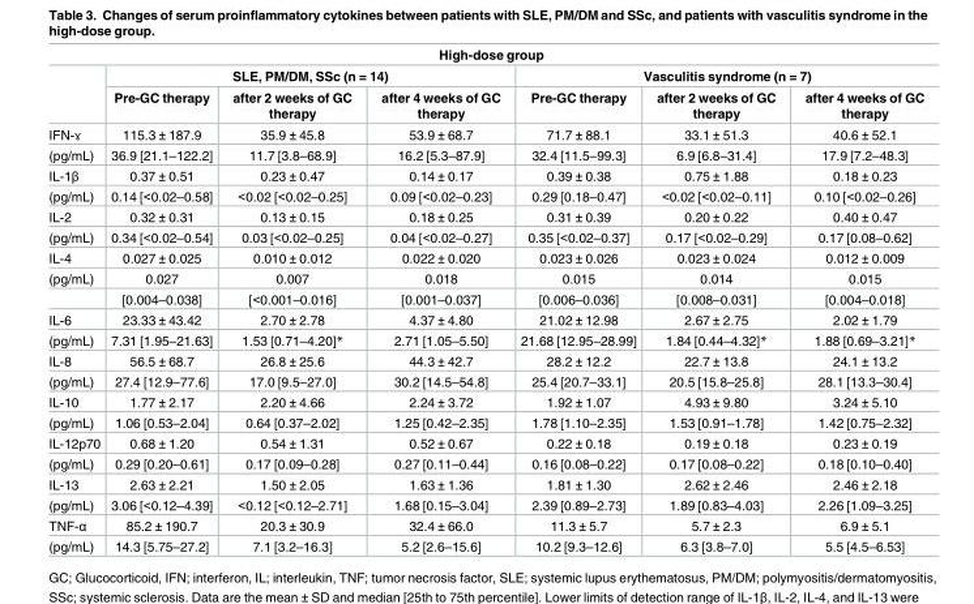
<table><thead><tr><td colspan="7">High-dose group</td></tr><tr><td rowspan="2"></td><td colspan="3">SLE, PM/DM, SSc (n = 14)</td><td colspan="3">Vasculitis syndrome (n = 7)</td></tr><tr><td>Pre-GC therapy</td><td>after 2 weeks of GC therapy</td><td>after 4 weeks of GC therapy</td><td>Pre-GC therapy</td><td>after 2 weeks of GC therapy</td><td>after 4 weeks of GC therapy</td></tr></thead><tbody><tr><td>IFN-ɤ</td><td>115.3 ± 187.9</td><td>35.9 ± 45.8</td><td>53.9 ± 68.7</td><td>71.7 ± 88.1</td><td>33.1 ± 51.3</td><td>40.6 ± 52.1</td></tr><tr><td>(pg/mL)</td><td>36.9 [21.1–122.2]</td><td>11.7 [3.8–68.9]</td><td>16.2 [5.3–87.9]</td><td>32.4 [11.5–99.3]</td><td>6.9 [6.8–31.4]</td><td>17.9 [7.2–48.3]</td></tr><tr><td>IL-1β</td><td>0.37 ± 0.51</td><td>0.23 ± 0.47</td><td>0.14 ± 0.17</td><td>0.39 ± 0.38</td><td>0.75 ± 1.88</td><td>0.18 ± 0.23</td></tr><tr><td>(pg/mL)</td><td>0.14 [&lt;0.02–0.58]</td><td>&lt;0.02 [&lt;0.02–0.25]</td><td>0.09 [&lt;0.02–0.23]</td><td>0.29 [0.18–0.47]</td><td>&lt;0.02 [&lt;0.02–0.11]</td><td>0.10 [&lt;0.02–0.26]</td></tr><tr><td>IL-2</td><td>0.32 ± 0.31</td><td>0.13 ± 0.15</td><td>0.18 ± 0.25</td><td>0.31 ± 0.39</td><td>0.20 ± 0.22</td><td>0.40 ± 0.47</td></tr><tr><td>(pg/mL)</td><td>0.34 [&lt;0.02–0.54]</td><td>0.03 [&lt;0.02–0.25]</td><td>0.04 [&lt;0.02–0.27]</td><td>0.35 [&lt;0.02–0.37]</td><td>0.17 [&lt;0.02–0.29]</td><td>0.17 [0.08–0.62]</td></tr><tr><td>IL-4</td><td>0.027 ± 0.025</td><td>0.010 ± 0.012</td><td>0.022 ± 0.020</td><td>0.023 ± 0.026</td><td>0.023 ± 0.024</td><td>0.012 ± 0.009</td></tr><tr><td rowspan="2">(pg/mL)</td><td>0.027</td><td>0.007</td><td>0.018</td><td>0.015</td><td>0.014</td><td>0.015</td></tr><tr><td>[0.004–0.038]</td><td>[&lt;0.001–0.016]</td><td>[0.001–0.037]</td><td>[0.006–0.036]</td><td>[0.008–0.031]</td><td>[0.004–0.018]</td></tr><tr><td>IL-6</td><td>23.33 ± 43.42</td><td>2.70 ± 2.78</td><td>4.37 ± 4.80</td><td>21.02 ± 12.98</td><td>2.67 ± 2.75</td><td>2.02 ± 1.79</td></tr><tr><td>(pg/mL)</td><td>7.31 [1.95–21.63]</td><td>1.53 [0.71–4.20]*</td><td>2.71 [1.05–5.50]</td><td>21.68 [12.95–28.99]</td><td>1.84 [0.44–4.32]*</td><td>1.88 [0.69–3.21]*</td></tr><tr><td>IL-8</td><td>56.5 ± 68.7</td><td>26.8 ± 25.6</td><td>44.3 ± 42.7</td><td>28.2 ± 12.2</td><td>22.7 ± 13.8</td><td>24.1 ± 13.2</td></tr><tr><td>(pg/mL)</td><td>27.4 [12.9–77.6]</td><td>17.0 [9.5–27.0]</td><td>30.2 [14.5–54.8]</td><td>25.4 [20.7–33.1]</td><td>20.5 [15.8–25.8]</td><td>28.1 [13.3–30.4]</td></tr><tr><td>IL-10</td><td>1.77 ± 2.17</td><td>2.20 ± 4.66</td><td>2.24 ± 3.72</td><td>1.92 ± 1.07</td><td>4.93 ± 9.80</td><td>3.24 ± 5.10</td></tr><tr><td>(pg/mL)</td><td>1.06 [0.53–2.04]</td><td>0.64 [0.37–2.02]</td><td>1.25 [0.42–2.35]</td><td>1.78 [1.10–2.35]</td><td>1.53 [0.91–1.78]</td><td>1.42 [0.75–2.32]</td></tr><tr><td>IL-12p70</td><td>0.68 ± 1.20</td><td>0.54 ± 1.31</td><td>0.52 ± 0.67</td><td>0.22 ± 0.18</td><td>0.19 ± 0.18</td><td>0.23 ± 0.19</td></tr><tr><td>(pg/mL)</td><td>0.29 [0.20–0.61]</td><td>0.17 [0.09–0.28]</td><td>0.27 [0.11–0.44]</td><td>0.16 [0.08–0.22]</td><td>0.17 [0.08–0.22]</td><td>0.18 [0.10–0.40]</td></tr><tr><td>IL-13</td><td>2.63 ± 2.21</td><td>1.50 ± 2.05</td><td>1.63 ± 1.36</td><td>1.81 ± 1.30</td><td>2.62 ± 2.46</td><td>2.46 ± 2.18</td></tr><tr><td>(pg/mL)</td><td>3.06 [&lt;0.12–4.39]</td><td>&lt;0.12 [&lt;0.12–2.71]</td><td>1.68 [0.15–3.04]</td><td>2.39 [0.89–2.73]</td><td>1.89 [0.83–4.03]</td><td>2.26 [1.09–3.25]</td></tr><tr><td>TNF-α</td><td>85.2 ± 190.7</td><td>20.3 ± 30.9</td><td>32.4 ± 66.0</td><td>11.3 ± 5.7</td><td>5.7 ± 2.3</td><td>6.9 ± 5.1</td></tr><tr><td>(pg/mL)</td><td>14.3 [5.75–27.2]</td><td>7.1 [3.2–16.3]</td><td>5.2 [2.6–15.6]</td><td>10.2 [9.3–12.6]</td><td>6.3 [3.8–7.0]</td><td>5.5 [4.5–6.53]</td></tr></tbody></table>